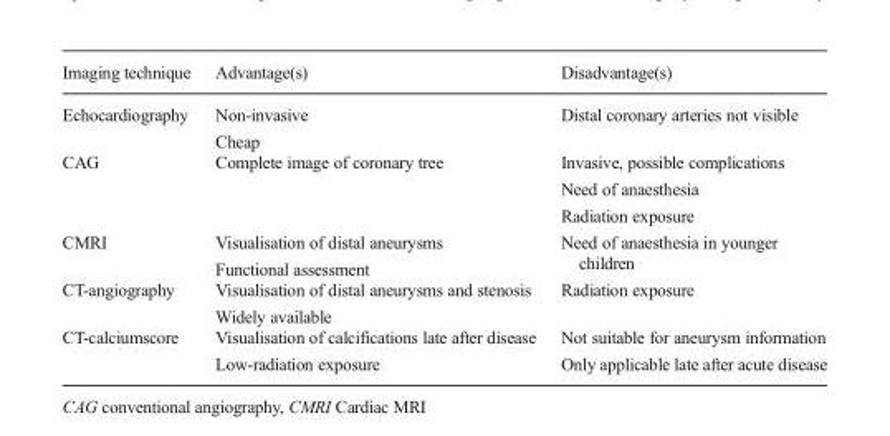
<table><thead><tr><td>Imaging technique</td><td>Advantage(s)</td><td>Disadvantage(s)</td></tr></thead><tbody><tr><td>Echocardiography</td><td>Non-invasive Cheap</td><td>Distal coronary arteries not visible</td></tr><tr><td>CAG</td><td>Complete image of coronary tree</td><td>Invasive, possible complications Need of anaesthesia Radiation exposure</td></tr><tr><td>CMRI</td><td>Visualisation of distal aneurysms Functional assessment</td><td>Need of anaesthesia in younger children</td></tr><tr><td>CT-angiography</td><td>Visualisation of distal aneurysms and stenosis Widely available</td><td>Radiation exposure</td></tr><tr><td>CT-calciumscore</td><td>Visualisation of calcifications late after disease Low-radiation exposure</td><td>Not suitable for aneurysm information Only applicable late after acute disease</td></tr></tbody></table>